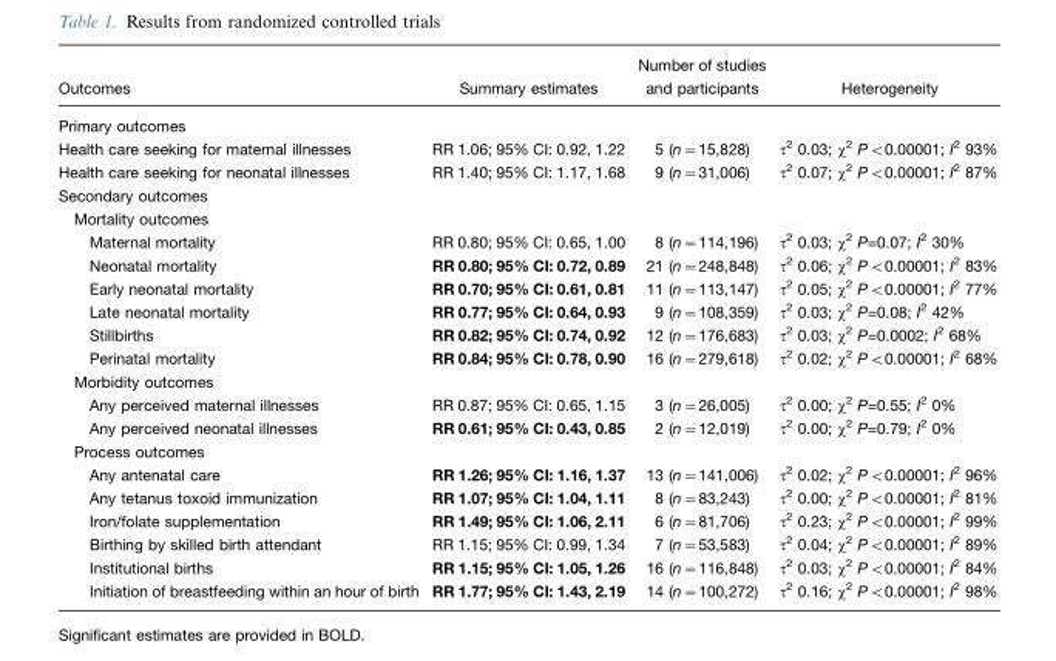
<table><thead><tr><td>Outcomes</td><td>Summary estimates</td><td>Number of studies and participants</td><td>Heterogeneity</td></tr></thead><tbody><tr><td colspan="4">Primary outcomes</td></tr><tr><td>Health care seeking for maternal illnesses</td><td>RR 1.06; 95% CI: 0.92, 1.22</td><td>5 (n=15,828)</td><td>τ<sup>2</sup> 0.03; χ<sup>2</sup> P&lt;0.00001; I<sup>2</sup> 93%</td></tr><tr><td>Health care seeking for neonatal illnesses</td><td>RR 1.40; 95% CI: 1.17, 1.68</td><td>9 (n=31,006)</td><td>τ<sup>2</sup> 0.07; χ<sup>2</sup> P&lt;0.00001; I<sup>2</sup> 87%</td></tr><tr><td colspan="4">Secondary outcomes</td></tr><tr><td colspan="4">Mortality outcomes</td></tr><tr><td>Maternal mortality</td><td>RR 0.80; 95% CI: 0.65, 1.00</td><td>8 (n=114,196)</td><td>τ<sup>2</sup> 0.03; χ<sup>2</sup> P=0.07; I<sup>2</sup> 30%</td></tr><tr><td>Neonatal mortality</td><td>RR 0.80; 95% CI: 0.72, 0.89</td><td>21 (n=248,848)</td><td>τ<sup>2</sup> 0.06; χ<sup>2</sup> P&lt;0.00001; I<sup>2</sup> 83%</td></tr><tr><td>Early neonatal mortality</td><td>RR 0.70; 95% CI: 0.61, 0.81</td><td>11 (n=113,147)</td><td>τ<sup>2</sup> 0.05; χ<sup>2</sup> P&lt;0.00001; I<sup>2</sup> 77%</td></tr><tr><td>Late neonatal mortality</td><td>RR 0.77; 95% CI: 0.64, 0.93</td><td>9 (n=108,359)</td><td>τ<sup>2</sup> 0.03; χ<sup>2</sup> P=0.08; I<sup>2</sup> 42%</td></tr><tr><td>Stillbirths</td><td>RR 0.82; 95% CI: 0.74, 0.92</td><td>12 (n=176,683)</td><td>τ<sup>2</sup> 0.03; χ<sup>2</sup> P=0.0002; I<sup>2</sup> 68%</td></tr><tr><td>Perinatal mortality</td><td>RR 0.84; 95% CI: 0.78, 0.90</td><td>16 (n=279,618)</td><td>τ<sup>2</sup> 0.02; χ<sup>2</sup> P&lt;0.00001; I<sup>2</sup> 68%</td></tr><tr><td colspan="4">Morbidity outcomes</td></tr><tr><td>Any perceived maternal illnesses</td><td>RR 0.87; 95% CI: 0.65, 1.15</td><td>3 (n=26,005)</td><td>τ<sup>2</sup> 0.00; χ<sup>2</sup> P=0.55; I<sup>2</sup> 0%</td></tr><tr><td>Any perceived neonatal illnesses</td><td>RR 0.61; 95% CI: 0.43, 0.85</td><td>2 (n=12,019)</td><td>τ<sup>2</sup> 0.00; χ<sup>2</sup> P=0.79; I<sup>2</sup> 0%</td></tr><tr><td colspan="4">Process outcomes</td></tr><tr><td>Any antenatal care</td><td>RR 1.26; 95% CI: 1.16, 1.37</td><td>13 (n=141,006)</td><td>τ<sup>2</sup> 0.02; χ<sup>2</sup> P&lt;0.00001; I<sup>2</sup> 96%</td></tr><tr><td>Any tetanus toxoid immunization</td><td>RR 1.07; 95% CI: 1.04, 1.11</td><td>8 (n=83,243)</td><td>τ<sup>2</sup> 0.00; χ<sup>2</sup> P&lt;0.00001; I<sup>2</sup> 81%</td></tr><tr><td>Iron/folate supplementation</td><td>RR 1.49; 95% CI: 1.06, 2.11</td><td>6 (n=81,706)</td><td>τ<sup>2</sup> 0.23; χ<sup>2</sup> P&lt;0.00001; I<sup>2</sup> 99%</td></tr><tr><td>Birthing by skilled birth attendant</td><td>RR 1.15; 95% CI: 0.99, 1.34</td><td>7 (n=53,583)</td><td>τ<sup>2</sup> 0.04; χ<sup>2</sup> P&lt;0.00001; I<sup>2</sup> 89%</td></tr><tr><td>Institutional births</td><td>RR 1.15; 95% CI: 1.05, 1.26</td><td>16 (n=116,848)</td><td>τ<sup>2</sup> 0.03; χ<sup>2</sup> P&lt;0.00001; I<sup>2</sup> 84%</td></tr><tr><td>Initiation of breastfeeding within an hour of birth</td><td>RR 1.77; 95% CI: 1.43, 2.19</td><td>14 (n=100,272)</td><td>τ<sup>2</sup> 0.16; χ<sup>2</sup> P&lt;0.00001; I<sup>2</sup> 98%</td></tr></tbody></table>